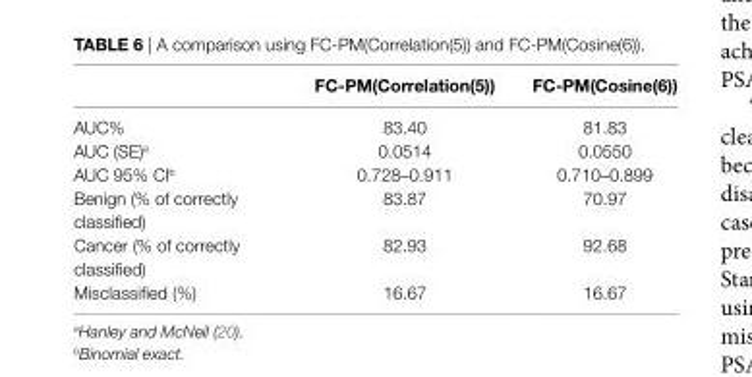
<table><thead><tr><td></td><td>Fc-PM(correlation(5))</td><td>Fc-PM(cosine(6))</td></tr></thead><tbody><tr><td>AUC%</td><td>83.40</td><td>81.83</td></tr><tr><td>AUC (SE)<sup>a</sup></td><td>0.0514</td><td>0.0550</td></tr><tr><td>AUC 95% CI<sup>b</sup></td><td>0.728–0.911</td><td>0.710–0.899</td></tr><tr><td>Benign (% of correctly classified)</td><td>83.87</td><td>70.97</td></tr><tr><td>Cancer (% of correctly classified)</td><td>82.93</td><td>92.68</td></tr><tr><td>Misclassified (%)</td><td>16.67</td><td>16.67</td></tr></tbody></table>